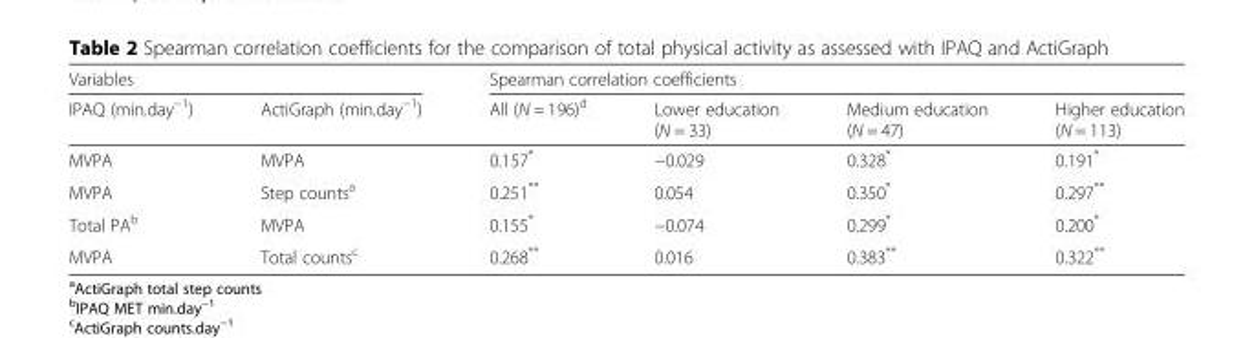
<table><thead><tr><td colspan="2">Variables</td><td colspan="4">Spearman correlation coefficients</td></tr><tr><td>IPAQ (min.day<sup>−1</sup>)</td><td>ActiGraph (min.day<sup>−1</sup>)</td><td>All (N = 196)<sup>d</sup></td><td>Lower education (N = 33)</td><td>Medium education (N = 47)</td><td>Higher education (N = 113)</td></tr></thead><tbody><tr><td>MVPA</td><td>MVPA</td><td>0.157*</td><td>−0.029</td><td>0.328*</td><td>0.191*</td></tr><tr><td>MVPA</td><td>Step counts<sup>a</sup></td><td>0.251**</td><td>0.054</td><td>0.350*</td><td>0.297**</td></tr><tr><td>Total PA<sup>b</sup></td><td>MVPA</td><td>0.155*</td><td>−0.074</td><td>0.299*</td><td>0.200*</td></tr><tr><td>MVPA</td><td>Total counts<sup>c</sup></td><td>0.268**</td><td>0.016</td><td>0.383**</td><td>0.322**</td></tr></tbody></table>